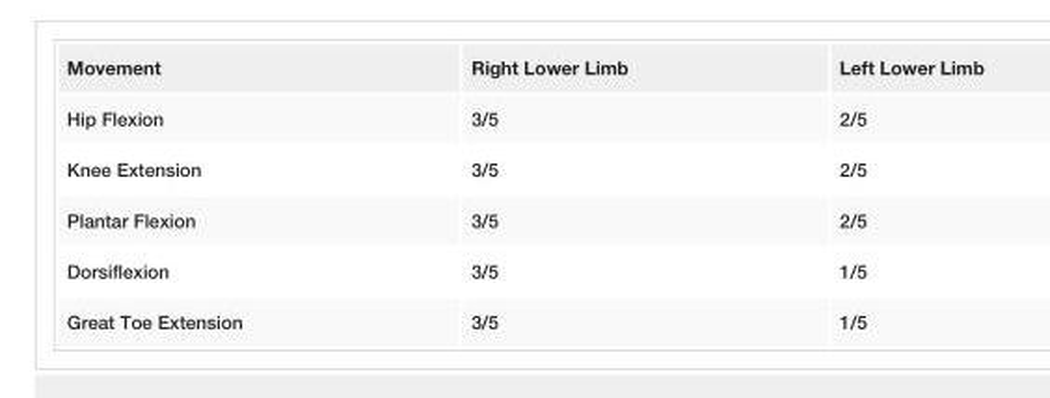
<table><tbody><tr><td>Movement</td><td>Right Lower Limb</td><td>Left Lower Limb</td></tr><tr><td>Hip Flexion</td><td>3/5</td><td>2/5</td></tr><tr><td>Knee Extension</td><td>3/5</td><td>2/5</td></tr><tr><td>Plantar Flexion</td><td>3/5</td><td>2/5</td></tr><tr><td>Dorsiflexion</td><td>3/5</td><td>1/5</td></tr><tr><td>Great Toe Extension</td><td>3/5</td><td>1/5</td></tr></tbody></table>